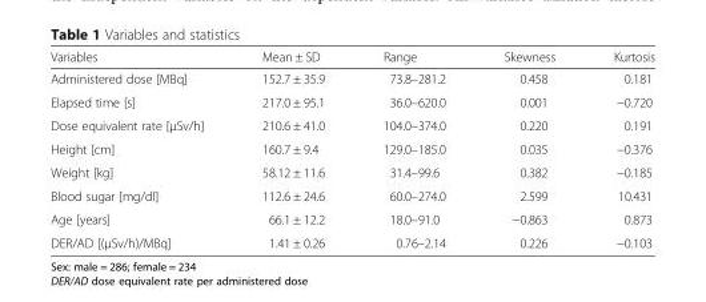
<table><thead><tr><td>Variables</td><td>Mean ± SD</td><td>Range</td><td>Skewness</td><td>Kurtosis</td></tr></thead><tbody><tr><td>Administered dose [MBq]</td><td>152.7 ± 35.9</td><td>73.8–281.2</td><td>0.458</td><td>0.181</td></tr><tr><td>Elapsed time [s]</td><td>217.0 ± 95.1</td><td>36.0–620.0</td><td>0.001</td><td>−0.720</td></tr><tr><td>Dose equivalent rate [μSv/h]</td><td>210.6 ± 41.0</td><td>104.0–374.0</td><td>0.220</td><td>0.191</td></tr><tr><td>Height [cm]</td><td>160.7 ± 9.4</td><td>129.0–185.0</td><td>0.035</td><td>−0.376</td></tr><tr><td>Weight [kg]</td><td>58.12 ± 11.6</td><td>31.4–99.6</td><td>0.382</td><td>−0.185</td></tr><tr><td>Blood sugar [mg/dl]</td><td>112.6 ± 24.6</td><td>60.0–274.0</td><td>2.599</td><td>10.431</td></tr><tr><td>Age [years]</td><td>66.1 ± 12.2</td><td>18.0–91.0</td><td>−0.863</td><td>0.873</td></tr><tr><td>DER/AD [(μSv/h)/MBq]</td><td>1.41 ± 0.26</td><td>0.76–2.14</td><td>0.226</td><td>−0.103</td></tr></tbody></table>